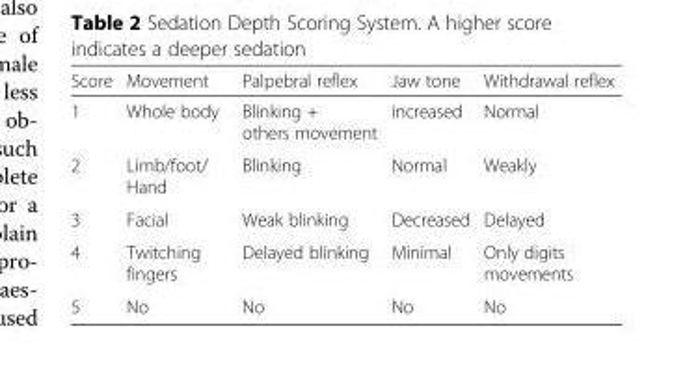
<table><thead><tr><td>Score</td><td>Movement</td><td>Palpebral reflex</td><td>Jaw tone</td><td>Withdrawal reflex</td></tr></thead><tbody><tr><td>1</td><td>Whole body</td><td>Blinking + others movement</td><td>increased</td><td>Normal</td></tr><tr><td>2</td><td>Limb/foot/ Hand</td><td>Blinking</td><td>Normal</td><td>Weakly</td></tr><tr><td>3</td><td>Facial</td><td>Weak blinking</td><td>Decreased</td><td>Delayed</td></tr><tr><td>4</td><td>Twitching fingers</td><td>Delayed blinking</td><td>Minimal</td><td>Only digits movements</td></tr><tr><td>5</td><td>No</td><td>No</td><td>No</td><td>No</td></tr></tbody></table>